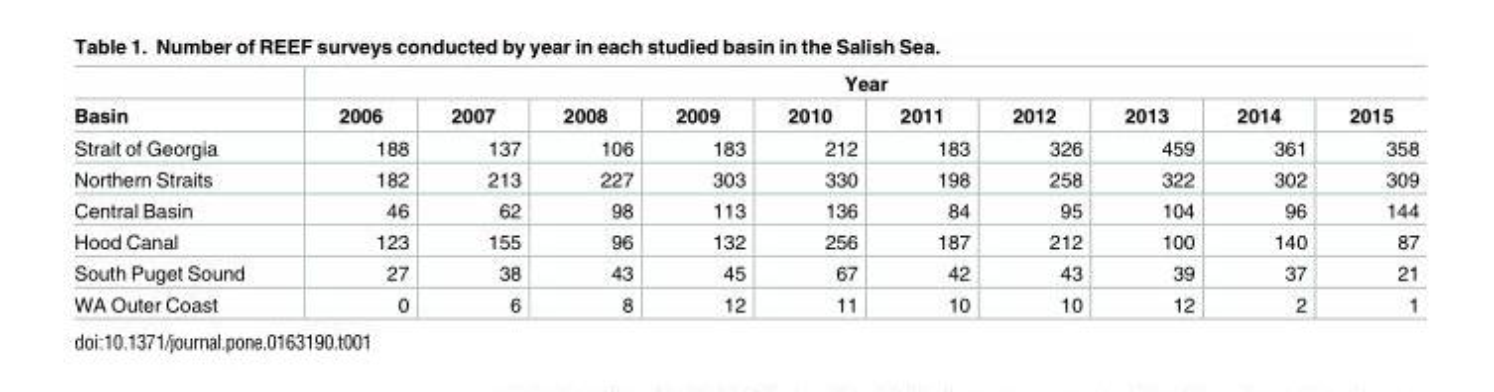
<table><thead><tr><td rowspan="2">Basin</td><td colspan="10">Year</td></tr><tr><td>2006</td><td>2007</td><td>2008</td><td>2009</td><td>2010</td><td>2011</td><td>2012</td><td>2013</td><td>2014</td><td>2015</td></tr></thead><tbody><tr><td>Strait of Georgia</td><td>188</td><td>137</td><td>106</td><td>183</td><td>212</td><td>183</td><td>326</td><td>459</td><td>361</td><td>358</td></tr><tr><td>Northern Straits</td><td>182</td><td>213</td><td>227</td><td>303</td><td>330</td><td>198</td><td>258</td><td>322</td><td>302</td><td>309</td></tr><tr><td>Central Basin</td><td>46</td><td>62</td><td>98</td><td>113</td><td>136</td><td>84</td><td>95</td><td>104</td><td>96</td><td>144</td></tr><tr><td>Hood Canal</td><td>123</td><td>155</td><td>96</td><td>132</td><td>256</td><td>187</td><td>212</td><td>100</td><td>140</td><td>87</td></tr><tr><td>South Puget Sound</td><td>27</td><td>38</td><td>43</td><td>45</td><td>67</td><td>42</td><td>43</td><td>39</td><td>37</td><td>21</td></tr><tr><td>WA Outer Coast</td><td>0</td><td>6</td><td>8</td><td>12</td><td>11</td><td>10</td><td>10</td><td>12</td><td>2</td><td>1</td></tr></tbody></table>